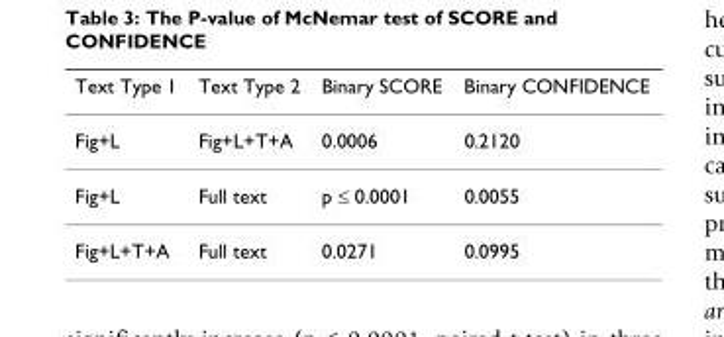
<table><thead><tr><td>Text Type 1</td><td>Text Type 2</td><td>Binary SCORE</td><td>Binary CONFIDENCE</td></tr></thead><tbody><tr><td>Fig+L</td><td>Fig+L+T+A</td><td>0.0006</td><td>0.2120</td></tr><tr><td>Fig+L</td><td>Full text</td><td>p ≤ 0.0001</td><td>0.0055</td></tr><tr><td>Fig+L+T+A</td><td>Full text</td><td>0.0271</td><td>0.0995</td></tr></tbody></table>